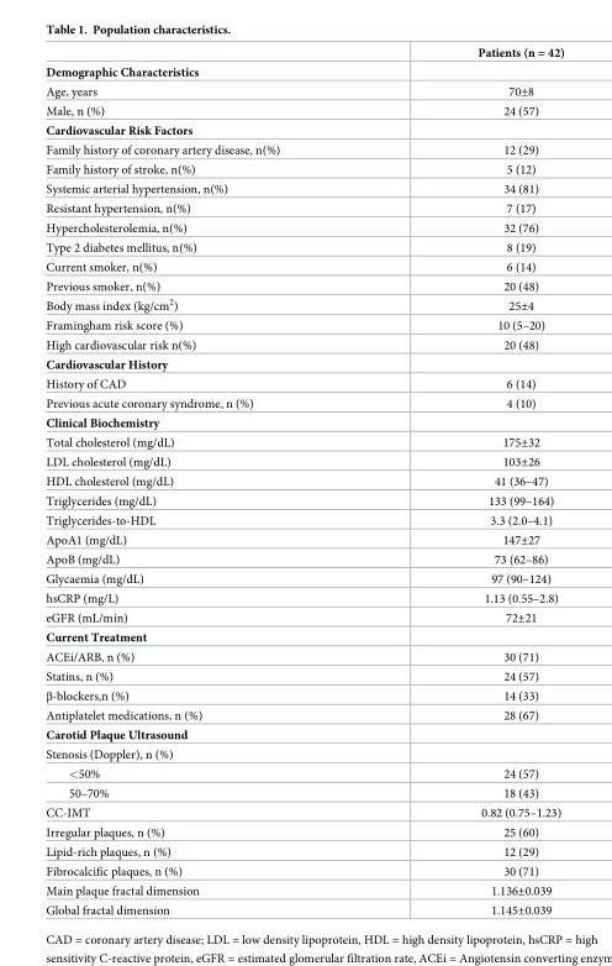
<table><thead><tr><td></td><td>Patients (n = 42)</td></tr></thead><tbody><tr><td colspan="2">Demographic Characteristics</td></tr><tr><td>Age, years</td><td>70±8</td></tr><tr><td>Male, n (%)</td><td>24 (57)</td></tr><tr><td colspan="2">Cardiovascular Risk Factors</td></tr><tr><td>Family history of coronary artery disease, n(%)</td><td>12 (29)</td></tr><tr><td>Family history of stroke, n(%)</td><td>5 (12)</td></tr><tr><td>Systemic arterial hypertension, n(%)</td><td>34 (81)</td></tr><tr><td>Resistant hypertension, n(%)</td><td>7 (17)</td></tr><tr><td>Hypercholesterolemia, n(%)</td><td>32 (76)</td></tr><tr><td>Type 2 diabetes mellitus, n(%)</td><td>8 (19)</td></tr><tr><td>Current smoker, n(%)</td><td>6 (14)</td></tr><tr><td>Previous smoker, n(%)</td><td>20 (48)</td></tr><tr><td>Body mass index (kg/cm<sup>2</sup>)</td><td>25±4</td></tr><tr><td>Framingham risk score (%)</td><td>10 (5–20)</td></tr><tr><td>High cardiovascular risk n(%)</td><td>20 (48)</td></tr><tr><td colspan="2">Cardiovascular History</td></tr><tr><td>History of CAD</td><td>6 (14)</td></tr><tr><td>Previous acute coronary syndrome, n (%)</td><td>4 (10)</td></tr><tr><td colspan="2">Clinical Biochemistry</td></tr><tr><td>Total cholesterol (mg/dL)</td><td>175±32</td></tr><tr><td>LDL cholesterol (mg/dL)</td><td>103±26</td></tr><tr><td>HDL cholesterol (mg/dL)</td><td>41 (36–47)</td></tr><tr><td>Triglycerides (mg/dL)</td><td>133 (99–164)</td></tr><tr><td>Triglycerides-to-HDL</td><td>3.3 (2.0–4.1)</td></tr><tr><td>ApoA1 (mg/dL)</td><td>147±27</td></tr><tr><td>ApoB (mg/dL)</td><td>73 (62–86)</td></tr><tr><td>Glycaemia (mg/dL)</td><td>97 (90–124)</td></tr><tr><td>hsCRP (mg/L)</td><td>1.13 (0.55–2.8)</td></tr><tr><td>eGFR (mL/min)</td><td>72±21</td></tr><tr><td colspan="2">Current Treatment</td></tr><tr><td>ACEi/ARB, n (%)</td><td>30 (71)</td></tr><tr><td>Statins, n (%)</td><td>24 (57)</td></tr><tr><td>β-blockers,n (%)</td><td>14 (33)</td></tr><tr><td>Antiplatelet medications, n (%)</td><td>28 (67)</td></tr><tr><td colspan="2">Carotid Plaque Ultrasound</td></tr><tr><td colspan="2">Stenosis (Doppler), n (%)</td></tr><tr><td>&lt;50%</td><td>24 (57)</td></tr><tr><td>50–70%</td><td>18 (43)</td></tr><tr><td>CC-IMT</td><td>0.82 (0.75–1.23)</td></tr><tr><td>Irregular plaques, n (%)</td><td>25 (60)</td></tr><tr><td>Lipid-rich plaques, n (%)</td><td>12 (29)</td></tr><tr><td>Fibrocalcific plaques, n (%)</td><td>30 (71)</td></tr><tr><td>Main plaque fractal dimension</td><td>1.136±0.039</td></tr><tr><td>Global fractal dimension</td><td>1.145±0.039</td></tr></tbody></table>